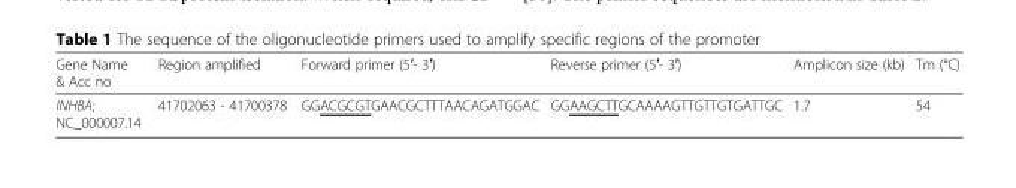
<table><thead><tr><td>Gene Name &amp; Acc no</td><td>Region amplified</td><td>Forward primer (5′- 3′)</td><td>Reverse primer (5′- 3′)</td><td>Amplicon size (kb)</td><td>Tm (°C)</td></tr></thead><tbody><tr><td>INHBA; NC_000007.14</td><td>41702063 - 41700378</td><td>GGACGCGTGAACGCTTTAACAGATGGAC</td><td>GGAAGCTTGCAAAAGTTGTTGTGATTGC</td><td>1.7</td><td>54</td></tr></tbody></table>